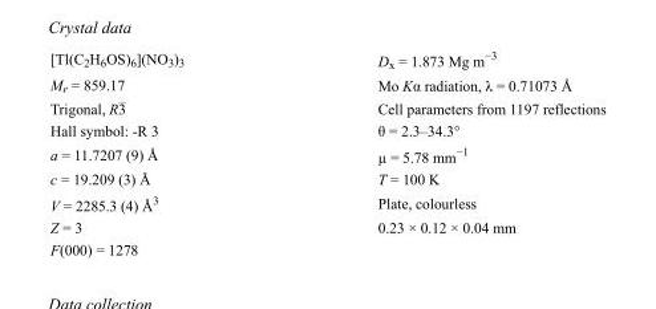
<table><tbody><tr><td>[Tl(C<sub>2</sub>H<sub>6</sub>OS)<sub>6</sub>](NO<sub>3</sub>)<sub>3</sub></td><td>D<sub>x</sub> = 1.873 Mg m<sup>−3</sup></td></tr><tr><td>M<sub>r</sub> = 859.17</td><td>Mo Kα radiation, λ = 0.71073 Å</td></tr><tr><td>Trigonal, R3</td><td>Cell parameters from 1197 reflections</td></tr><tr><td>Hall symbol: -R 3</td><td>θ = 2.3–34.3°</td></tr><tr><td>a = 11.7207 (9) Å</td><td>µ = 5.78 mm<sup>−1</sup></td></tr><tr><td>c = 19.209 (3) Å</td><td>T = 100 K</td></tr><tr><td>V = 2285.3 (4) Å<sup>3</sup></td><td>Plate, colourless</td></tr><tr><td>Z = 3</td><td>0.23 × 0.12 × 0.04 mm</td></tr><tr><td>F(000) = 1278</td><td></td></tr></tbody></table>